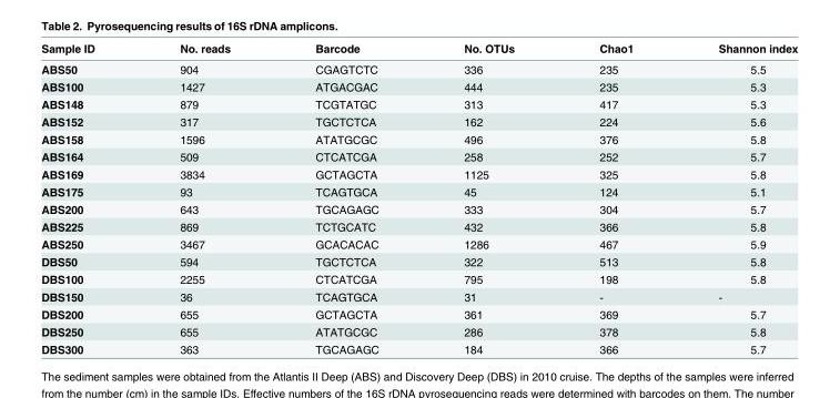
<table><thead><tr><td>Sample ID</td><td>No. reads</td><td>Barcode</td><td>No. OTUs</td><td>Chao1</td><td>Shannon index</td></tr></thead><tbody><tr><td>ABS50</td><td>904</td><td>CGAGTCTC</td><td>336</td><td>235</td><td>5.5</td></tr><tr><td>ABS100</td><td>1427</td><td>ATGACGAC</td><td>444</td><td>235</td><td>5.3</td></tr><tr><td>ABS148</td><td>879</td><td>TCGTATGC</td><td>313</td><td>417</td><td>5.3</td></tr><tr><td>ABS152</td><td>317</td><td>TGCTCTCA</td><td>162</td><td>224</td><td>5.6</td></tr><tr><td>ABS158</td><td>1596</td><td>ATATGCGC</td><td>496</td><td>376</td><td>5.8</td></tr><tr><td>ABS164</td><td>509</td><td>CTCATCGA</td><td>258</td><td>252</td><td>5.7</td></tr><tr><td>ABS169</td><td>3834</td><td>GCTAGCTA</td><td>1125</td><td>325</td><td>5.8</td></tr><tr><td>ABS175</td><td>93</td><td>TCAGTGCA</td><td>45</td><td>124</td><td>5.1</td></tr><tr><td>ABS200</td><td>643</td><td>TGCAGAGC</td><td>333</td><td>304</td><td>5.7</td></tr><tr><td>ABS225</td><td>869</td><td>TCTGCATC</td><td>432</td><td>366</td><td>5.8</td></tr><tr><td>ABS250</td><td>3467</td><td>GCACACAC</td><td>1286</td><td>467</td><td>5.9</td></tr><tr><td>DBS50</td><td>594</td><td>TGCTCTCA</td><td>322</td><td>513</td><td>5.8</td></tr><tr><td>DBS100</td><td>2255</td><td>CTCATCGA</td><td>795</td><td>198</td><td>5.8</td></tr><tr><td>DBS150</td><td>36</td><td>TCAGTGCA</td><td>31</td><td>-</td><td>-</td></tr><tr><td>DBS200</td><td>655</td><td>GCTAGCTA</td><td>361</td><td>369</td><td>5.7</td></tr><tr><td>DBS250</td><td>655</td><td>ATATGCGC</td><td>286</td><td>378</td><td>5.8</td></tr><tr><td>DBS300</td><td>363</td><td>TGCAGAGC</td><td>184</td><td>366</td><td>5.7</td></tr></tbody></table>